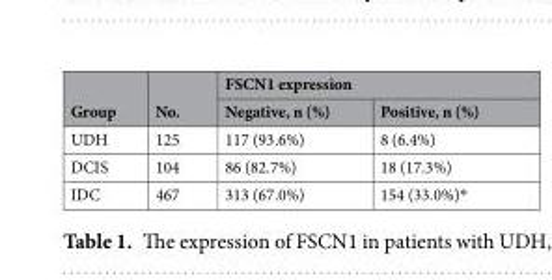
<table><thead><tr><td rowspan="2">Group</td><td rowspan="2">No.</td><td colspan="2">FSCN1 expression</td></tr><tr><td>Negative, n (%)</td><td>Positive, n (%)</td></tr></thead><tbody><tr><td>UDH</td><td>125</td><td>117 (93.6%)</td><td>8 (6.4%)</td></tr><tr><td>DCIS</td><td>104</td><td>86 (82.7%)</td><td>18 (17.3%)</td></tr><tr><td>IDC</td><td>467</td><td>313 (67.0%)</td><td>154 (33.0%)*</td></tr></tbody></table>